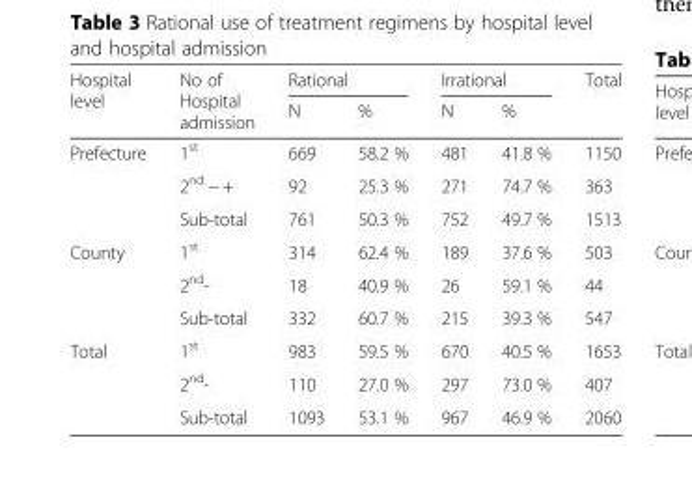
<table><thead><tr><td rowspan="2">Hospital level</td><td rowspan="2">No of Hospital admission</td><td colspan="2">Rational</td><td colspan="2">Irrational</td><td rowspan="2">Total</td></tr><tr><td>N</td><td>%</td><td>N</td><td>%</td></tr></thead><tbody><tr><td rowspan="3">Prefecture</td><td>1<sup>st</sup></td><td>669</td><td>58.2 %</td><td>481</td><td>41.8 %</td><td>1150</td></tr><tr><td>2<sup>nd</sup> − +</td><td>92</td><td>25.3 %</td><td>271</td><td>74.7 %</td><td>363</td></tr><tr><td>Sub-total</td><td>761</td><td>50.3 %</td><td>752</td><td>49.7 %</td><td>1513</td></tr><tr><td rowspan="3">County</td><td>1<sup>st</sup></td><td>314</td><td>62.4 %</td><td>189</td><td>37.6 %</td><td>503</td></tr><tr><td>2<sup>nd</sup>-</td><td>18</td><td>40.9 %</td><td>26</td><td>59.1 %</td><td>44</td></tr><tr><td>Sub-total</td><td>332</td><td>60.7 %</td><td>215</td><td>39.3 %</td><td>547</td></tr><tr><td rowspan="3">Total</td><td>1<sup>st</sup></td><td>983</td><td>59.5 %</td><td>670</td><td>40.5 %</td><td>1653</td></tr><tr><td>2<sup>nd</sup>-</td><td>110</td><td>27.0 %</td><td>297</td><td>73.0 %</td><td>407</td></tr><tr><td>Sub-total</td><td>1093</td><td>53.1 %</td><td>967</td><td>46.9 %</td><td>2060</td></tr></tbody></table>